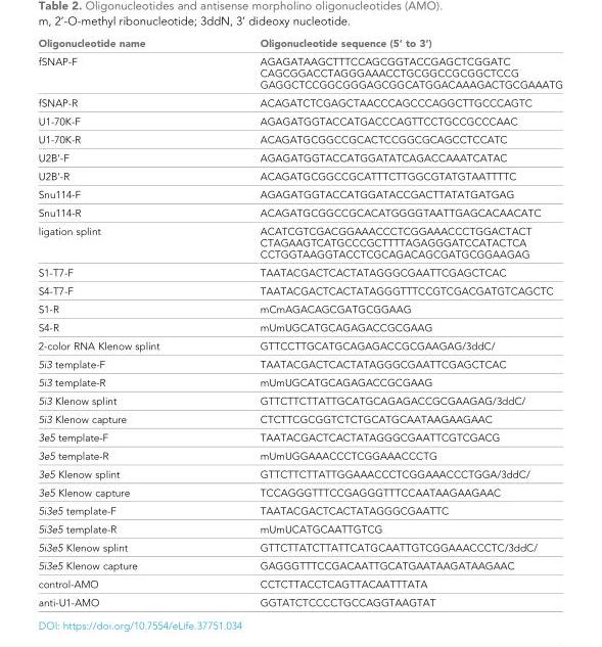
<table><thead><tr><td>Oligonucleotide name</td><td>Oligonucleotide sequence (5’ to 3’)</td></tr></thead><tbody><tr><td>fSNAP-F</td><td>AGAGATAAGCTTTCCAGCGGTACCGAGCTCGGATC CAGCGGACCTAGGGAAACCTGCGGCCGCGGCTCCG GAGGCTCCGGCGGGAGCGGCATGGACAAAGACTGCGAAATG</td></tr><tr><td>fSNAP-R</td><td>ACAGATCTCGAGCTAACCCAGCCCAGGCTTGCCCAGTC</td></tr><tr><td>U1-70K-F</td><td>AGAGATGGTACCATGACCCAGTTCCTGCCGCCCAAC</td></tr><tr><td>U1-70K-R</td><td>ACAGATGCGGCCGCACTCCGGCGCAGCCTCCATC</td></tr><tr><td>U2B’-F</td><td>AGAGATGGTACCATGGATATCAGACCAAATCATAC</td></tr><tr><td>U2B’-R</td><td>ACAGATGCGGCCGCATTTCTTGGCGTATGTAATTTTC</td></tr><tr><td>Snu114-F</td><td>AGAGATGGTACCATGGATACCGACTTATATGATGAG</td></tr><tr><td>Snu114-R</td><td>ACAGATGCGGCCGCACATGGGGTAATTGAGCACAACATC</td></tr><tr><td>ligation splint</td><td>ACATCGTCGACGGAAACCCTCGGAAACCCTGGACTACT CTAGAAGTCATGCCCGCTTTTAGAGGGATCCATACTCA CCTGGTAAGGTACCTCGCAGACAGCGATGCGGAAGAG</td></tr><tr><td>S1-T7-F</td><td>TAATACGACTCACTATAGGGCGAATTCGAGCTCAC</td></tr><tr><td>S4-T7-F</td><td>TAATACGACTCACTATAGGGTTTCCGTCGACGATGTCAGCTC</td></tr><tr><td>S1-R</td><td>mCmAGACAGCGATGCGGAAG</td></tr><tr><td>S4-R</td><td>mUmUGCATGCAGAGACCGCGAAG</td></tr><tr><td>2-color RNA Klenow splint</td><td>GTTCCTTGCATGCAGAGACCGCGAAGAG/3ddC/</td></tr><tr><td>5i3 template-F</td><td>TAATACGACTCACTATAGGGCGAATTCGAGCTCAC</td></tr><tr><td>5i3 template-R</td><td>mUmUGCATGCAGAGACCGCGAAG</td></tr><tr><td>5i3 Klenow splint</td><td>GTTCTTCTTATTGCATGCAGAGACCGCGAAGAG/3ddC/</td></tr><tr><td>5i3 Klenow capture</td><td>CTCTTCGCGGTCTCTGCATGCAATAAGAAGAAC</td></tr><tr><td>3e5 template-F</td><td>TAATACGACTCACTATAGGGCGAATTCGTCGACG</td></tr><tr><td>3e5 template-R</td><td>mUmUGGAAACCCTCGGAAACCCTG</td></tr><tr><td>3e5 Klenow splint</td><td>GTTCTTCTTATTGGAAACCCTCGGAAACCCTGGA/3ddC/</td></tr><tr><td>3e5 Klenow capture</td><td>TCCAGGGTTTCCGAGGGTTTCCAATAAGAAGAAC</td></tr><tr><td>5i3e5 template-F</td><td>TAATACGACTCACTATAGGGCGAATTC</td></tr><tr><td>5i3e5 template-R</td><td>mUmUCATGCAATTGTCG</td></tr><tr><td>5i3e5 Klenow splint</td><td>GTTCTTATCTTATTCATGCAATTGTCGGAAACCCTC/3ddC/</td></tr><tr><td>5i3e5 Klenow capture</td><td>GAGGGTTTCCGACAATTGCATGAATAAGATAAGAAC</td></tr><tr><td>control-AMO</td><td>CCTCTTACCTCAGTTACAATTTATA</td></tr><tr><td>anti-U1-AMO</td><td>GGTATCTCCCCTGCCAGGTAAGTAT</td></tr></tbody></table>